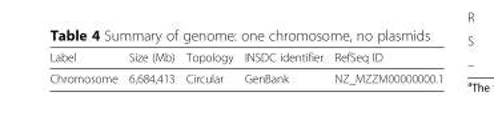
<table><thead><tr><td>Label</td><td>Size (Mb)</td><td>Topology</td><td>INSDC identifier</td><td>RefSeq ID</td></tr></thead><tbody><tr><td>Chromosome</td><td>6,684,413</td><td>Circular</td><td>GenBank</td><td>NZ_MZZM00000000.1</td></tr></tbody></table>